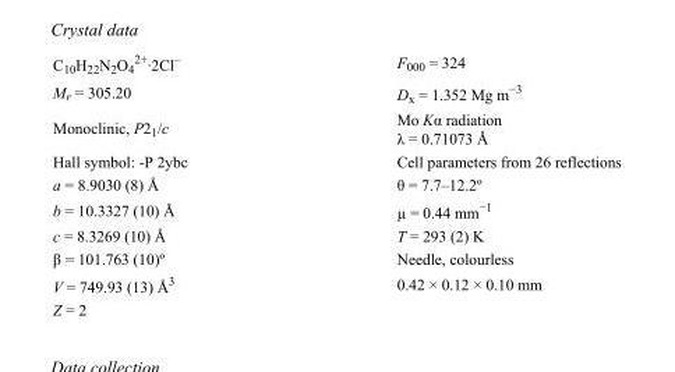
<table><tbody><tr><td>C<sub>10</sub>H<sub>22</sub>N<sub>2</sub>O<sub>4</sub> <sup>2+</sup>·2Cl<sup>–</sup></td><td>F<sub>000</sub> = 324</td></tr><tr><td>M<sub>r</sub> = 305.20</td><td>D<sub>x</sub> = 1.352 Mg m<sup>−3</sup></td></tr><tr><td>Monoclinic, P2<sub>1</sub>/c</td><td>Mo Kα radiation λ = 0.71073 Å</td></tr><tr><td>Hall symbol: -P 2ybc</td><td>Cell parameters from 26 reflections</td></tr><tr><td>a = 8.9030 (8) Å</td><td>θ = 7.7–12.2º</td></tr><tr><td>b = 10.3327 (10) Å</td><td>µ = 0.44 mm<sup>−1</sup></td></tr><tr><td>c = 8.3269 (10) Å</td><td>T = 293 (2) K</td></tr><tr><td>β = 101.763 (10)º</td><td>Needle, colourless</td></tr><tr><td>V = 749.93 (13) Å<sup>3</sup></td><td>0.42 × 0.12 × 0.10 mm</td></tr><tr><td>Z = 2</td><td></td></tr></tbody></table>